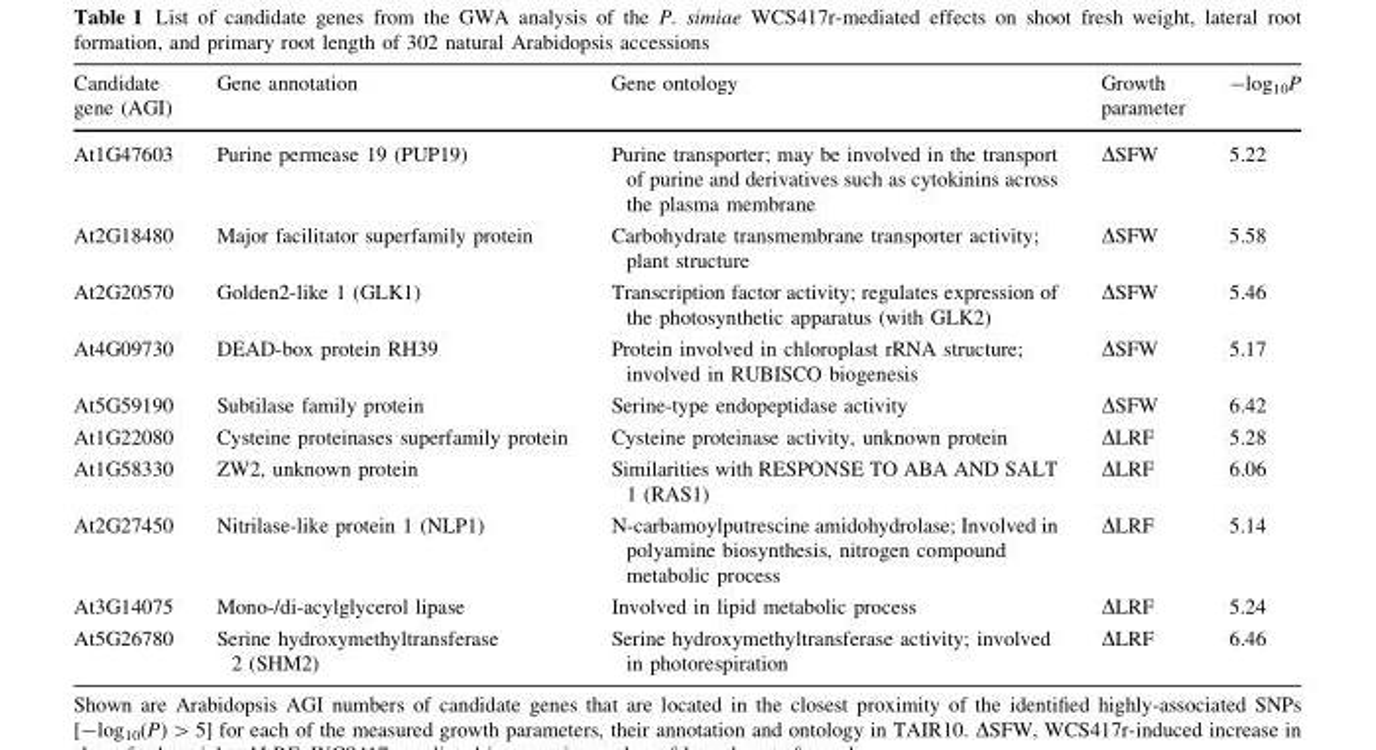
<table><thead><tr><td>Candidate gene (AGI)</td><td>Gene annotation</td><td>Gene ontology</td><td>Growth parameter</td><td>-log<sub>10</sub>P</td></tr></thead><tbody><tr><td>At1G47603</td><td>Purine permease 19 (PUP19)</td><td>Purine transporter; may be involved in the transport of purine and derivatives such as cytokinins across the plasma membrane</td><td>∆SFW</td><td>5.22</td></tr><tr><td>At2G18480</td><td>Major facilitator superfamily protein</td><td>Carbohydrate transmembrane transporter activity; plant structure</td><td>∆SFW</td><td>5.58</td></tr><tr><td>At2G20570</td><td>Golden2-like 1 (GLK1)</td><td>Transcription factor activity; regulates expression of the photosynthetic apparatus (with GLK2)</td><td>∆SFW</td><td>5.46</td></tr><tr><td>At4G09730</td><td>DEAD-box protein RH39</td><td>Protein involved in chloroplast rRNA structure; involved in RUBISCO biogenesis</td><td>∆SFW</td><td>5.17</td></tr><tr><td>At5G59190</td><td>Subtilase family protein</td><td>Serine-type endopeptidase activity</td><td>∆SFW</td><td>6.42</td></tr><tr><td>At1G22080</td><td>Cysteine proteinases superfamily protein</td><td>Cysteine proteinase activity, unknown protein</td><td>∆LRF</td><td>5.28</td></tr><tr><td>At1G58330</td><td>ZW2, unknown protein</td><td>Similarities with RESPONSE TO ABA AND SALT 1 (RAS1)</td><td>∆LRF</td><td>6.06</td></tr><tr><td>At2G27450</td><td>Nitrilase-like protein 1 (NLP1)</td><td>N-carbamoylputrescine amidohydrolase; Involved in polyamine biosynthesis, nitrogen compound metabolic process</td><td>∆LRF</td><td>5.14</td></tr><tr><td>At3G14075</td><td>Mono-/di-acylglycerol lipase</td><td>Involved in lipid metabolic process</td><td>∆LRF</td><td>5.24</td></tr><tr><td>At5G26780</td><td>Serine hydroxymethyltransferase 2 (SHM2)</td><td>Serine hydroxymethyltransferase activity; involved in photorespiration</td><td>∆LRF</td><td>6.46</td></tr></tbody></table>